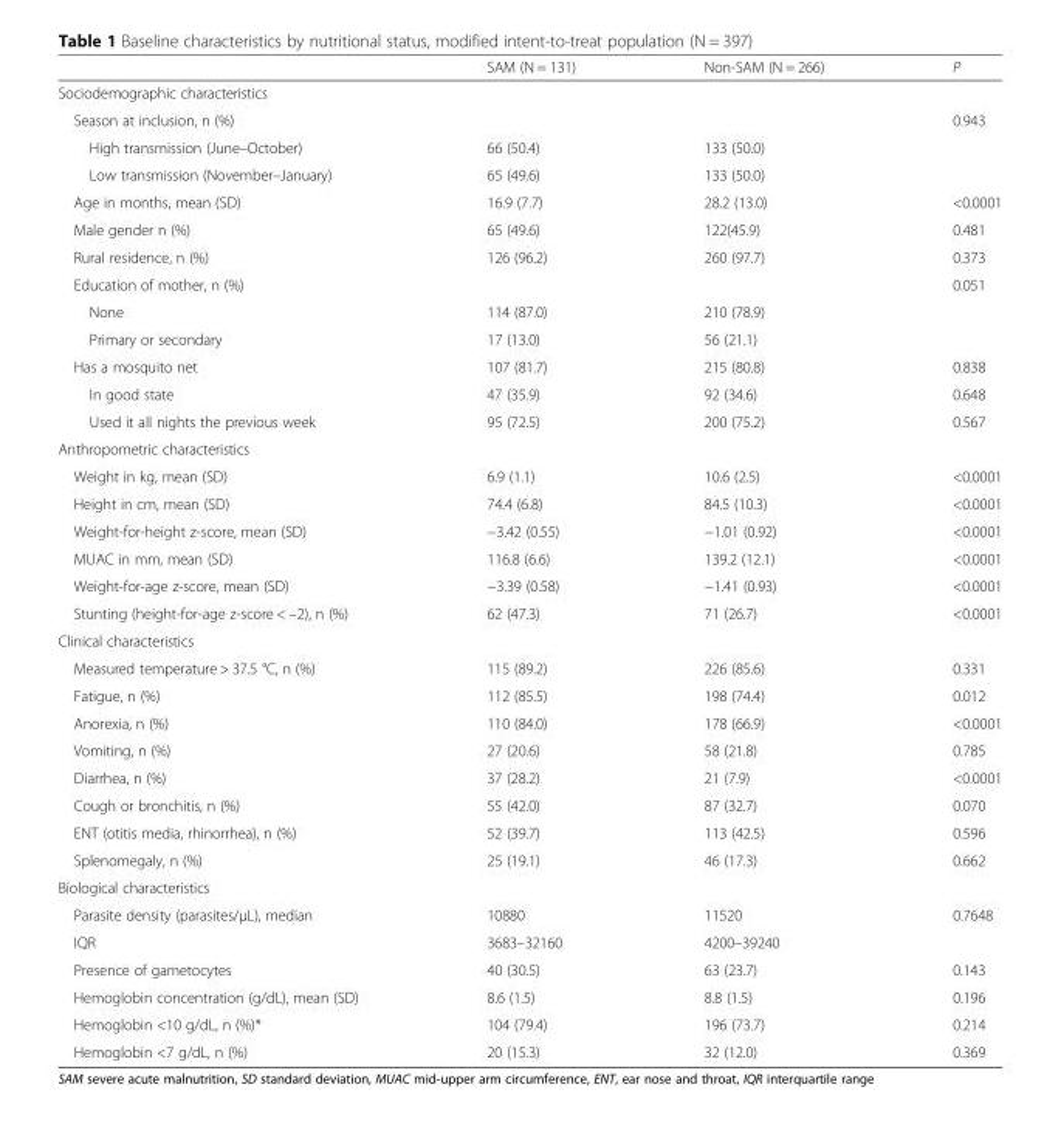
<table><thead><tr><td></td><td>SAM (N = 131)</td><td>Non-SAM (N = 266)</td><td>P</td></tr></thead><tbody><tr><td colspan="4">Sociodemographic characteristics</td></tr><tr><td colspan="3">Season at inclusion, n (%)</td><td rowspan="3">0.943</td></tr><tr><td>High transmission (June–October)</td><td>66 (50.4)</td><td>133 (50.0)</td></tr><tr><td>Low transmission (November–January)</td><td>65 (49.6)</td><td>133 (50.0)</td></tr><tr><td>Age in months, mean (SD)</td><td>16.9 (7.7)</td><td>28.2 (13.0)</td><td>&lt;0.0001</td></tr><tr><td>Male gender n (%)</td><td>65 (49.6)</td><td>122(45.9)</td><td>0.481</td></tr><tr><td>Rural residence, n (%)</td><td>126 (96.2)</td><td>260 (97.7)</td><td>0.373</td></tr><tr><td colspan="3">Education of mother, n (%)</td><td rowspan="3">0.051</td></tr><tr><td>None</td><td>114 (87.0)</td><td>210 (78.9)</td></tr><tr><td>Primary or secondary</td><td>17 (13.0)</td><td>56 (21.1)</td></tr><tr><td>Has a mosquito net</td><td>107 (81.7)</td><td>215 (80.8)</td><td>0.838</td></tr><tr><td>In good state</td><td>47 (35.9)</td><td>92 (34.6)</td><td>0.648</td></tr><tr><td>Used it all nights the previous week</td><td>95 (72.5)</td><td>200 (75.2)</td><td>0.567</td></tr><tr><td colspan="4">Anthropometric characteristics</td></tr><tr><td>Weight in kg, mean (SD)</td><td>6.9 (1.1)</td><td>10.6 (2.5)</td><td>&lt;0.0001</td></tr><tr><td>Height in cm, mean (SD)</td><td>74.4 (6.8)</td><td>84.5 (10.3)</td><td>&lt;0.0001</td></tr><tr><td>Weight-for-height z-score, mean (SD)</td><td>−3.42 (0.55)</td><td>−1.01 (0.92)</td><td>&lt;0.0001</td></tr><tr><td>MUAC in mm, mean (SD)</td><td>116.8 (6.6)</td><td>139.2 (12.1)</td><td>&lt;0.0001</td></tr><tr><td>Weight-for-age z-score, mean (SD)</td><td>−3.39 (0.58)</td><td>−1.41 (0.93)</td><td>&lt;0.0001</td></tr><tr><td>Stunting (height-for-age z-score &lt; –2), n (%)</td><td>62 (47.3)</td><td>71 (26.7)</td><td>&lt;0.0001</td></tr><tr><td colspan="4">Clinical characteristics</td></tr><tr><td>Measured temperature &gt; 37.5 °C, n (%)</td><td>115 (89.2)</td><td>226 (85.6)</td><td>0.331</td></tr><tr><td>Fatigue, n (%)</td><td>112 (85.5)</td><td>198 (74.4)</td><td>0.012</td></tr><tr><td>Anorexia, n (%)</td><td>110 (84.0)</td><td>178 (66.9)</td><td>&lt;0.0001</td></tr><tr><td>Vomiting, n (%)</td><td>27 (20.6)</td><td>58 (21.8)</td><td>0.785</td></tr><tr><td>Diarrhea, n (%)</td><td>37 (28.2)</td><td>21 (7.9)</td><td>&lt;0.0001</td></tr><tr><td>Cough or bronchitis, n (%)</td><td>55 (42.0)</td><td>87 (32.7)</td><td>0.070</td></tr><tr><td>ENT (otitis media, rhinorrhea), n (%)</td><td>52 (39.7)</td><td>113 (42.5)</td><td>0.596</td></tr><tr><td>Splenomegaly, n (%)</td><td>25 (19.1)</td><td>46 (17.3)</td><td>0.662</td></tr><tr><td colspan="4">Biological characteristics</td></tr><tr><td>Parasite density (parasites/μL), median</td><td>10880</td><td>11520</td><td rowspan="2">0.7648</td></tr><tr><td>IQR</td><td>3683–32160</td><td>4200–39240</td></tr><tr><td>Presence of gametocytes</td><td>40 (30.5)</td><td>63 (23.7)</td><td>0.143</td></tr><tr><td>Hemoglobin concentration (g/dL), mean (SD)</td><td>8.6 (1.5)</td><td>8.8 (1.5)</td><td>0.196</td></tr><tr><td>Hemoglobin &lt;10 g/dL, n (%)*</td><td>104 (79.4)</td><td>196 (73.7)</td><td>0.214</td></tr><tr><td>Hemoglobin &lt;7 g/dL, n (%)</td><td>20 (15.3)</td><td>32 (12.0)</td><td>0.369</td></tr></tbody></table>